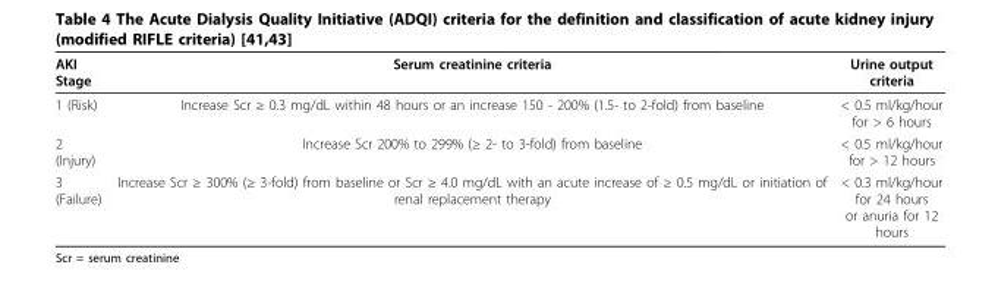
<table><thead><tr><td>AKI Stage</td><td>Serum creatinine criteria</td><td>Urine output criteria</td></tr></thead><tbody><tr><td>1 (Risk)</td><td>Increase Scr ≥ 0.3 mg/dL within 48 hours or an increase 150 - 200% (1.5- to 2-fold) from baseline</td><td>&lt; 0.5 ml/kg/hour for &gt; 6 hours</td></tr><tr><td>2 (Injury)</td><td>Increase Scr 200% to 299% (≥ 2- to 3-fold) from baseline</td><td>&lt; 0.5 ml/kg/hour for &gt; 12 hours</td></tr><tr><td>3 (Failure)</td><td>Increase Scr ≥ 300% (≥ 3-fold) from baseline or Scr ≥ 4.0 mg/dL with an acute increase of ≥ 0.5 mg/dL or initiation of renal replacement therapy</td><td>&lt; 0.3 ml/kg/hour for 24 hours or anuria for 12 hours</td></tr></tbody></table>